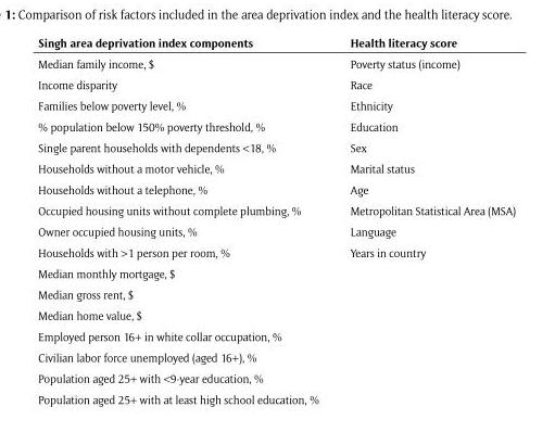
<table><thead><tr><td>Singh area deprivation index components</td><td>Health literacy score</td></tr></thead><tbody><tr><td>Median family income, $</td><td>Poverty status (income)</td></tr><tr><td>Income disparity</td><td>Race</td></tr><tr><td>Families below poverty level, %</td><td>Ethnicity</td></tr><tr><td>% population below 150% poverty threshold, %</td><td>Education</td></tr><tr><td>Single parent households with dependents &lt;18, %</td><td>Sex</td></tr><tr><td>Households without a motor vehicle, %</td><td>Marital status</td></tr><tr><td>Households without a telephone, %</td><td>Age</td></tr><tr><td>Occupied housing units without complete plumbing, %</td><td>Metropolitan Statistical Area (MSA)</td></tr><tr><td>Owner occupied housing units, %</td><td>Language</td></tr><tr><td>Households with &gt;1 person per room, %</td><td>Years in country</td></tr><tr><td colspan="2">Median monthly mortgage, $</td></tr><tr><td colspan="2">Median gross rent, $</td></tr><tr><td colspan="2">Median home value, $</td></tr><tr><td colspan="2">Employed person 16+ in white collar occupation, %</td></tr><tr><td colspan="2">Civilian labor force unemployed (aged 16+), %</td></tr><tr><td colspan="2">Population aged 25+ with &lt;9-year education, %</td></tr><tr><td>Population aged 25+ with at least high school education, %</td><td></td></tr></tbody></table>